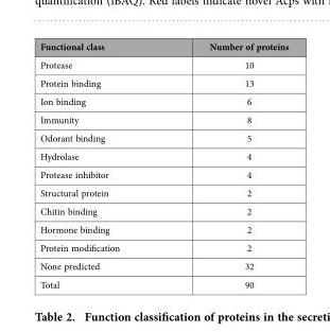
<table><thead><tr><td>Functional class</td><td>Number of proteins</td></tr></thead><tbody><tr><td>Protease</td><td>10</td></tr><tr><td>Protein binding</td><td>13</td></tr><tr><td>Ion binding</td><td>6</td></tr><tr><td>Immunity</td><td>8</td></tr><tr><td>Odorant binding</td><td>5</td></tr><tr><td>Hydrolase</td><td>4</td></tr><tr><td>Protease inhibitor</td><td>4</td></tr><tr><td>Structural protein</td><td>2</td></tr><tr><td>Chitin binding</td><td>2</td></tr><tr><td>Hormone binding</td><td>2</td></tr><tr><td>Protein modification</td><td>2</td></tr><tr><td>None predicted</td><td>32</td></tr><tr><td>Total</td><td>90</td></tr></tbody></table>